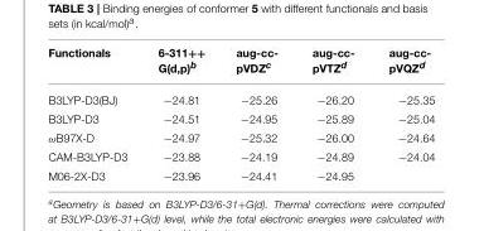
<table><thead><tr><td>Functionals</td><td>6-311++ G(d,p)<sup>b</sup></td><td>aug-cc- pVDZ<sup>c</sup></td><td>aug-cc- pVTZ<sup>d</sup></td><td>aug-cc- pVQZ<sup>d</sup></td></tr></thead><tbody><tr><td>B3LYP-D3(BJ)</td><td>−24.81</td><td>−25.26</td><td>−26.20</td><td>−25.35</td></tr><tr><td>B3LYP-D3</td><td>−24.51</td><td>−24.95</td><td>−25.89</td><td>−25.04</td></tr><tr><td>ωB97X-D</td><td>−24.97</td><td>−25.32</td><td>−26.00</td><td>−24.64</td></tr><tr><td>CAM-B3LYP-D3</td><td>−23.88</td><td>−24.19</td><td>−24.89</td><td>−24.04</td></tr><tr><td>M06-2X-D3</td><td>−23.96</td><td>−24.41</td><td>−24.95</td><td></td></tr></tbody></table>